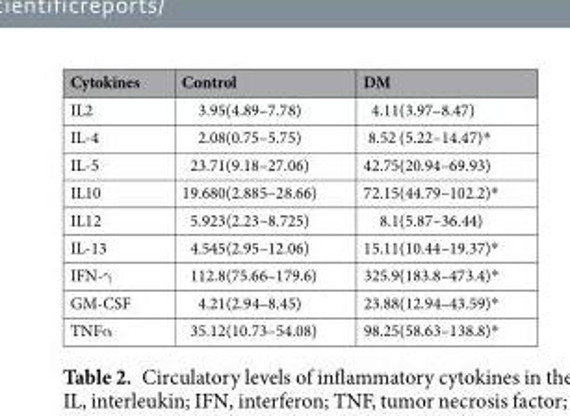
<table><thead><tr><td>Cytokines</td><td>Control</td><td>DM</td></tr></thead><tbody><tr><td>IL2</td><td>3.95(4.89–7.78)</td><td>4.11(3.97–8.47)</td></tr><tr><td>IL-4</td><td>2.08(0.75–5.75)</td><td>8.52 (5.22–14.47)*</td></tr><tr><td>IL-5</td><td>23.71(9.18–27.06)</td><td>42.75(20.94–69.93)</td></tr><tr><td>IL10</td><td>19.680(2.885–28.66)</td><td>72.15(44.79–102.2)*</td></tr><tr><td>IL12</td><td>5.923(2.23–8.725)</td><td>8.1(5.87–36.44)</td></tr><tr><td>IL-13</td><td>4.545(2.95–12.06)</td><td>15.11(10.44–19.37)*</td></tr><tr><td>IFN-γ</td><td>112.8(75.66–179.6)</td><td>325.9(183.8–473.4)*</td></tr><tr><td>GM-CSF</td><td>4.21(2.94–8.45)</td><td>23.88(12.94–43.59)*</td></tr><tr><td>TNFα</td><td>35.12(10.73–54.08)</td><td>98.25(58.63–138.8)*</td></tr></tbody></table>